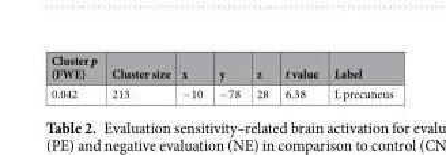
<table><thead><tr><td>Cluster p (FWE)</td><td>Cluster size</td><td>x</td><td>y</td><td>z</td><td>t value</td><td>Label</td></tr></thead><tbody><tr><td>0.042</td><td>213</td><td>−10</td><td>−78</td><td>28</td><td>6.38</td><td>L precuneus</td></tr></tbody></table>